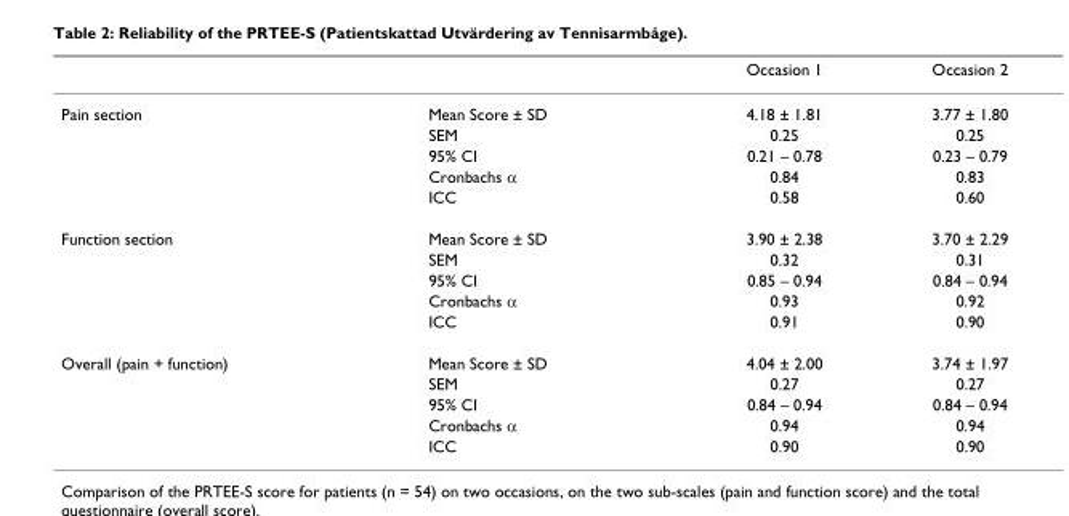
<table><thead><tr><td></td><td></td><td>Occasion 1</td><td>Occasion 2</td></tr></thead><tbody><tr><td rowspan="5">Pain section</td><td>Mean Score ± SD</td><td>4.18 ± 1.81</td><td>3.77 ± 1.80</td></tr><tr><td>SEM</td><td>0.25</td><td>0.25</td></tr><tr><td>95% CI</td><td>0.21 – 0.78</td><td>0.23 – 0.79</td></tr><tr><td>Cronbachs α</td><td>0.84</td><td>0.83</td></tr><tr><td>ICC</td><td>0.58</td><td>0.60</td></tr><tr><td rowspan="5">Function section</td><td>Mean Score ± SD</td><td>3.90 ± 2.38</td><td>3.70 ± 2.29</td></tr><tr><td>SEM</td><td>0.32</td><td>0.31</td></tr><tr><td>95% CI</td><td>0.85 – 0.94</td><td>0.84 – 0.94</td></tr><tr><td>Cronbachs α</td><td>0.93</td><td>0.92</td></tr><tr><td>ICC</td><td>0.91</td><td>0.90</td></tr><tr><td rowspan="5">Overall (pain + function)</td><td>Mean Score ± SD</td><td>4.04 ± 2.00</td><td>3.74 ± 1.97</td></tr><tr><td>SEM</td><td>0.27</td><td>0.27</td></tr><tr><td>95% CI</td><td>0.84 – 0.94</td><td>0.84 – 0.94</td></tr><tr><td>Cronbachs α</td><td>0.94</td><td>0.94</td></tr><tr><td>ICC</td><td>0.90</td><td>0.90</td></tr></tbody></table>